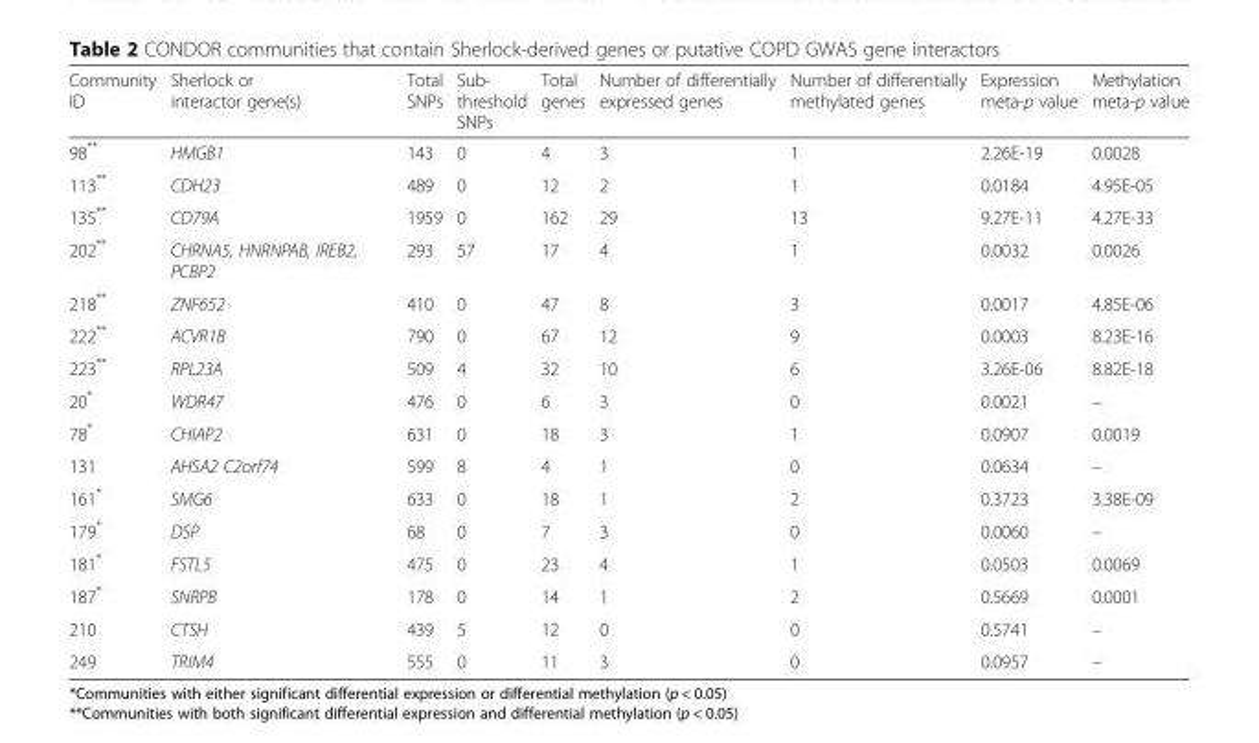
<table><thead><tr><td>Community ID</td><td>Sherlock or interactor gene(s)</td><td>Total SNPs</td><td>Sub- threshold SNPs</td><td>Total genes</td><td>Number of differentially expressed genes</td><td>Number of differentially methylated genes</td><td>Expression meta-p value</td><td>Methylation meta-p value</td></tr></thead><tbody><tr><td>98**</td><td>HMGB1</td><td>143</td><td>0</td><td>4</td><td>3</td><td>1</td><td>2.26E-19</td><td>0.0028</td></tr><tr><td>113**</td><td>CDH23</td><td>489</td><td>0</td><td>12</td><td>2</td><td>1</td><td>0.0184</td><td>4.95E-05</td></tr><tr><td>135**</td><td>CD79A</td><td>1959</td><td>0</td><td>162</td><td>29</td><td>13</td><td>9.27E-11</td><td>4.27E-33</td></tr><tr><td>202**</td><td>CHRNA5, HNRNPAB, IREB2, PCBP2</td><td>293</td><td>57</td><td>17</td><td>4</td><td>1</td><td>0.0032</td><td>0.0026</td></tr><tr><td>218**</td><td>ZNF652</td><td>410</td><td>0</td><td>47</td><td>8</td><td>3</td><td>0.0017</td><td>4.85E-06</td></tr><tr><td>222**</td><td>ACVR1B</td><td>790</td><td>0</td><td>67</td><td>12</td><td>9</td><td>0.0003</td><td>8.23E-16</td></tr><tr><td>223**</td><td>RPL23A</td><td>509</td><td>4</td><td>32</td><td>10</td><td>6</td><td>3.26E-06</td><td>8.82E-18</td></tr><tr><td>20*</td><td>WDR47</td><td>476</td><td>0</td><td>6</td><td>3</td><td>0</td><td>0.0021</td><td>–</td></tr><tr><td>78*</td><td>CHIAP2</td><td>631</td><td>0</td><td>18</td><td>3</td><td>1</td><td>0.0907</td><td>0.0019</td></tr><tr><td>131</td><td>AHSA2 C2orf74</td><td>599</td><td>8</td><td>4</td><td>1</td><td>0</td><td>0.0634</td><td>–</td></tr><tr><td>161*</td><td>SMG6</td><td>633</td><td>0</td><td>18</td><td>1</td><td>2</td><td>0.3723</td><td>3.38E-09</td></tr><tr><td>179*</td><td>DSP</td><td>68</td><td>0</td><td>7</td><td>3</td><td>0</td><td>0.0060</td><td>–</td></tr><tr><td>181*</td><td>FSTL5</td><td>475</td><td>0</td><td>23</td><td>4</td><td>1</td><td>0.0503</td><td>0.0069</td></tr><tr><td>187*</td><td>SNRPB</td><td>178</td><td>0</td><td>14</td><td>1</td><td>2</td><td>0.5669</td><td>0.0001</td></tr><tr><td>210</td><td>CTSH</td><td>439</td><td>5</td><td>12</td><td>0</td><td>0</td><td>0.5741</td><td>–</td></tr><tr><td>249</td><td>TRIM4</td><td>555</td><td>0</td><td>11</td><td>3</td><td>0</td><td>0.0957</td><td>–</td></tr></tbody></table>